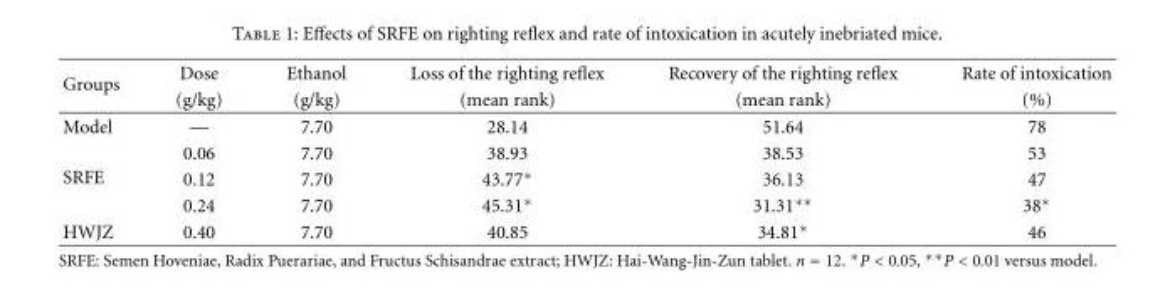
<table><thead><tr><td rowspan="2">Groups</td><td rowspan="2">Dose (g/kg)</td><td rowspan="2">Ethanol (g/kg)</td><td rowspan="2">Loss of the righting reflex (mean rank)</td><td rowspan="2">Recovery of the righting reflex (mean rank)</td><td rowspan="2">Rate of intoxication (%)</td></tr><tr></tr></thead><tbody><tr><td>Model</td><td>—</td><td>7.70</td><td>28.14</td><td>51.64</td><td>78</td></tr><tr><td rowspan="3">SRFE</td><td>0.06</td><td>7.70</td><td>38.93</td><td>38.53</td><td>53</td></tr><tr><td>0.12</td><td>7.70</td><td>43.77∗</td><td>36.13</td><td>47</td></tr><tr><td>0.24</td><td>7.70</td><td>45.31∗</td><td>31.31∗∗</td><td>38∗</td></tr><tr><td>HWJZ</td><td>0.40</td><td>7.70</td><td>40.85</td><td>34.81∗</td><td>46</td></tr></tbody></table>